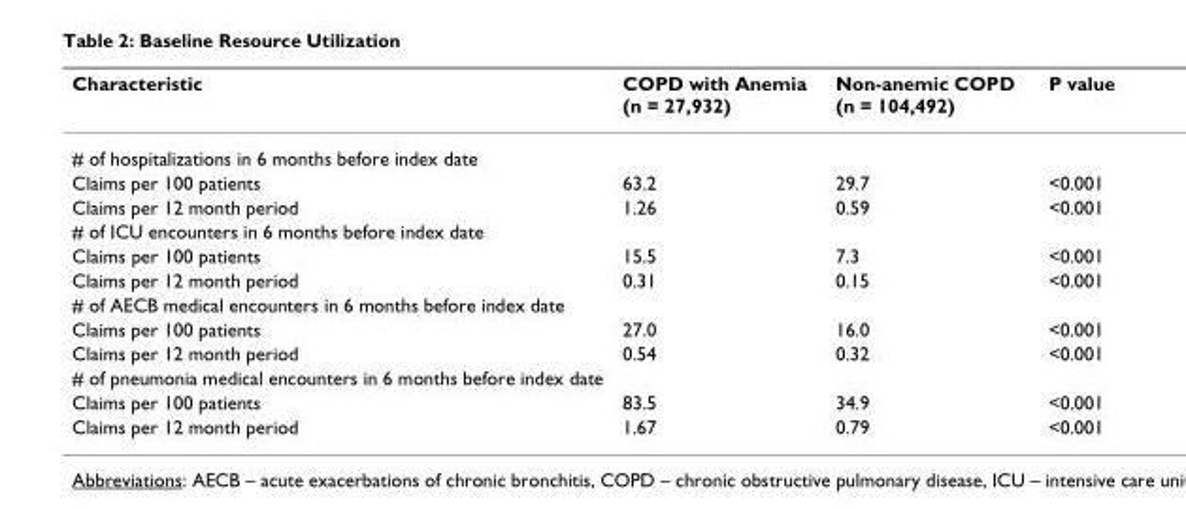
<table><thead><tr><td>Characteristic</td><td>COPD with Anemia (n = 27,932)</td><td>Non-anemic COPD (n = 104,492)</td><td>P value</td></tr></thead><tbody><tr><td colspan="4"># of hospitalizations in 6 months before index date</td></tr><tr><td>Claims per 100 patients</td><td>63.2</td><td>29.7</td><td>&lt;0.001</td></tr><tr><td>Claims per 12 month period</td><td>1.26</td><td>0.59</td><td>&lt;0.001</td></tr><tr><td colspan="4"># of ICU encounters in 6 months before index date</td></tr><tr><td>Claims per 100 patients</td><td>15.5</td><td>7.3</td><td>&lt;0.001</td></tr><tr><td>Claims per 12 month period</td><td>0.31</td><td>0.15</td><td>&lt;0.001</td></tr><tr><td colspan="4"># of AECB medical encounters in 6 months before index date</td></tr><tr><td>Claims per 100 patients</td><td>27.0</td><td>16.0</td><td>&lt;0.001</td></tr><tr><td>Claims per 12 month period</td><td>0.54</td><td>0.32</td><td>&lt;0.001</td></tr><tr><td colspan="4"># of pneumonia medical encounters in 6 months before index date</td></tr><tr><td>Claims per 100 patients</td><td>83.5</td><td>34.9</td><td>&lt;0.001</td></tr><tr><td>Claims per 12 month period</td><td>1.67</td><td>0.79</td><td>&lt;0.001</td></tr></tbody></table>